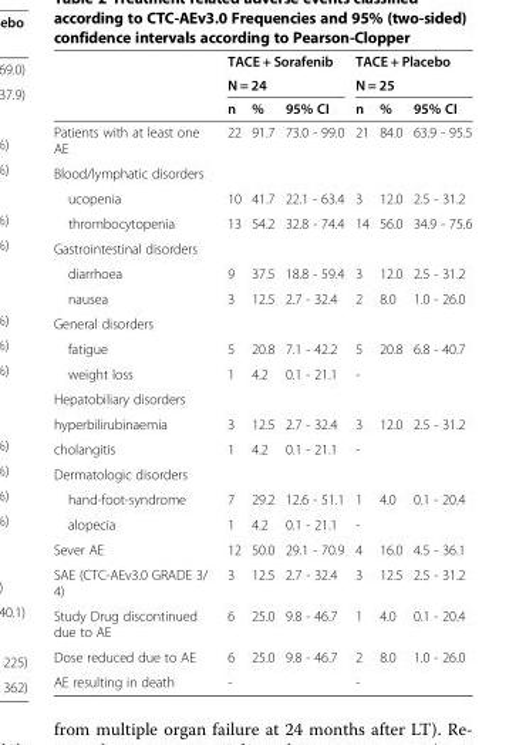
<table><thead><tr><td rowspan="3"></td><td rowspan="2" colspan="3">TACE + Sorafenib N = 24</td><td rowspan="2" colspan="3">TACE + Placebo N = 25</td></tr><tr></tr><tr><td>n</td><td>%</td><td>95% CI</td><td>n</td><td>%</td><td>95% CI</td></tr></thead><tbody><tr><td>Patients with at least one AE</td><td>22</td><td>91.7</td><td>73.0 - 99.0</td><td>21</td><td>84.0</td><td>63.9 - 95.5</td></tr><tr><td colspan="7">Blood/lymphatic disorders</td></tr><tr><td>ucopenia</td><td>10</td><td>41.7</td><td>22.1 - 63.4</td><td>3</td><td>12.0</td><td>2.5 - 31.2</td></tr><tr><td>thrombocytopenia</td><td>13</td><td>54.2</td><td>32.8 - 74.4</td><td>14</td><td>56.0</td><td>34.9 - 75.6</td></tr><tr><td colspan="7">Gastrointestinal disorders</td></tr><tr><td>diarrhoea</td><td>9</td><td>37.5</td><td>18.8 - 59.4</td><td>3</td><td>12.0</td><td>2.5 - 31.2</td></tr><tr><td>nausea</td><td>3</td><td>12.5</td><td>2.7 - 32.4</td><td>2</td><td>8.0</td><td>1.0 - 26.0</td></tr><tr><td colspan="7">General disorders</td></tr><tr><td>fatigue</td><td>5</td><td>20.8</td><td>7.1 - 42.2</td><td>5</td><td>20.8</td><td>6.8 - 40.7</td></tr><tr><td>weight loss</td><td>1</td><td>4.2</td><td>0.1 - 21.1</td><td>-</td><td></td><td></td></tr><tr><td colspan="7">Hepatobiliary disorders</td></tr><tr><td>hyperbilirubinaemia</td><td>3</td><td>12.5</td><td>2.7 - 32.4</td><td>3</td><td>12.0</td><td>2.5 - 31.2</td></tr><tr><td>cholangitis</td><td>1</td><td>4.2</td><td>0.1 - 21.1</td><td>-</td><td></td><td></td></tr><tr><td colspan="7">Dermatologic disorders</td></tr><tr><td>hand-foot-syndrome</td><td>7</td><td>29.2</td><td>12.6 - 51.1</td><td>1</td><td>4.0</td><td>0.1 - 20.4</td></tr><tr><td>alopecia</td><td>1</td><td>4.2</td><td>0.1 - 21.1</td><td>-</td><td></td><td></td></tr><tr><td>Sever AE</td><td>12</td><td>50.0</td><td>29.1 - 70.9</td><td>4</td><td>16.0</td><td>4.5 - 36.1</td></tr><tr><td>SAE (CTC-AEv3.0 GRADE 3/ 4)</td><td>3</td><td>12.5</td><td>2.7 - 32.4</td><td>3</td><td>12.5</td><td>2.5 - 31.2</td></tr><tr><td>Study Drug discontinued due to AE</td><td>6</td><td>25.0</td><td>9.8 - 46.7</td><td>1</td><td>4.0</td><td>0.1 - 20.4</td></tr><tr><td>Dose reduced due to AE</td><td>6</td><td>25.0</td><td>9.8 - 46.7</td><td>2</td><td>8.0</td><td>1.0 - 26.0</td></tr><tr><td>AE resulting in death</td><td>-</td><td></td><td></td><td>-</td><td></td><td></td></tr></tbody></table>